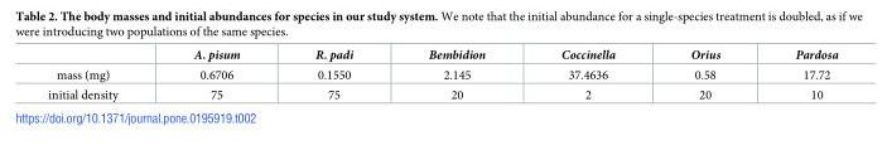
<table><thead><tr><td></td><td>A. pisum</td><td>R. padi</td><td>Bembidion</td><td>Coccinella</td><td>Orius</td><td>Pardosa</td></tr></thead><tbody><tr><td>mass (mg)</td><td>0.6706</td><td>0.1550</td><td>2.145</td><td>37.4636</td><td>0.58</td><td>17.72</td></tr><tr><td>initial density</td><td>75</td><td>75</td><td>20</td><td>2</td><td>20</td><td>10</td></tr></tbody></table>